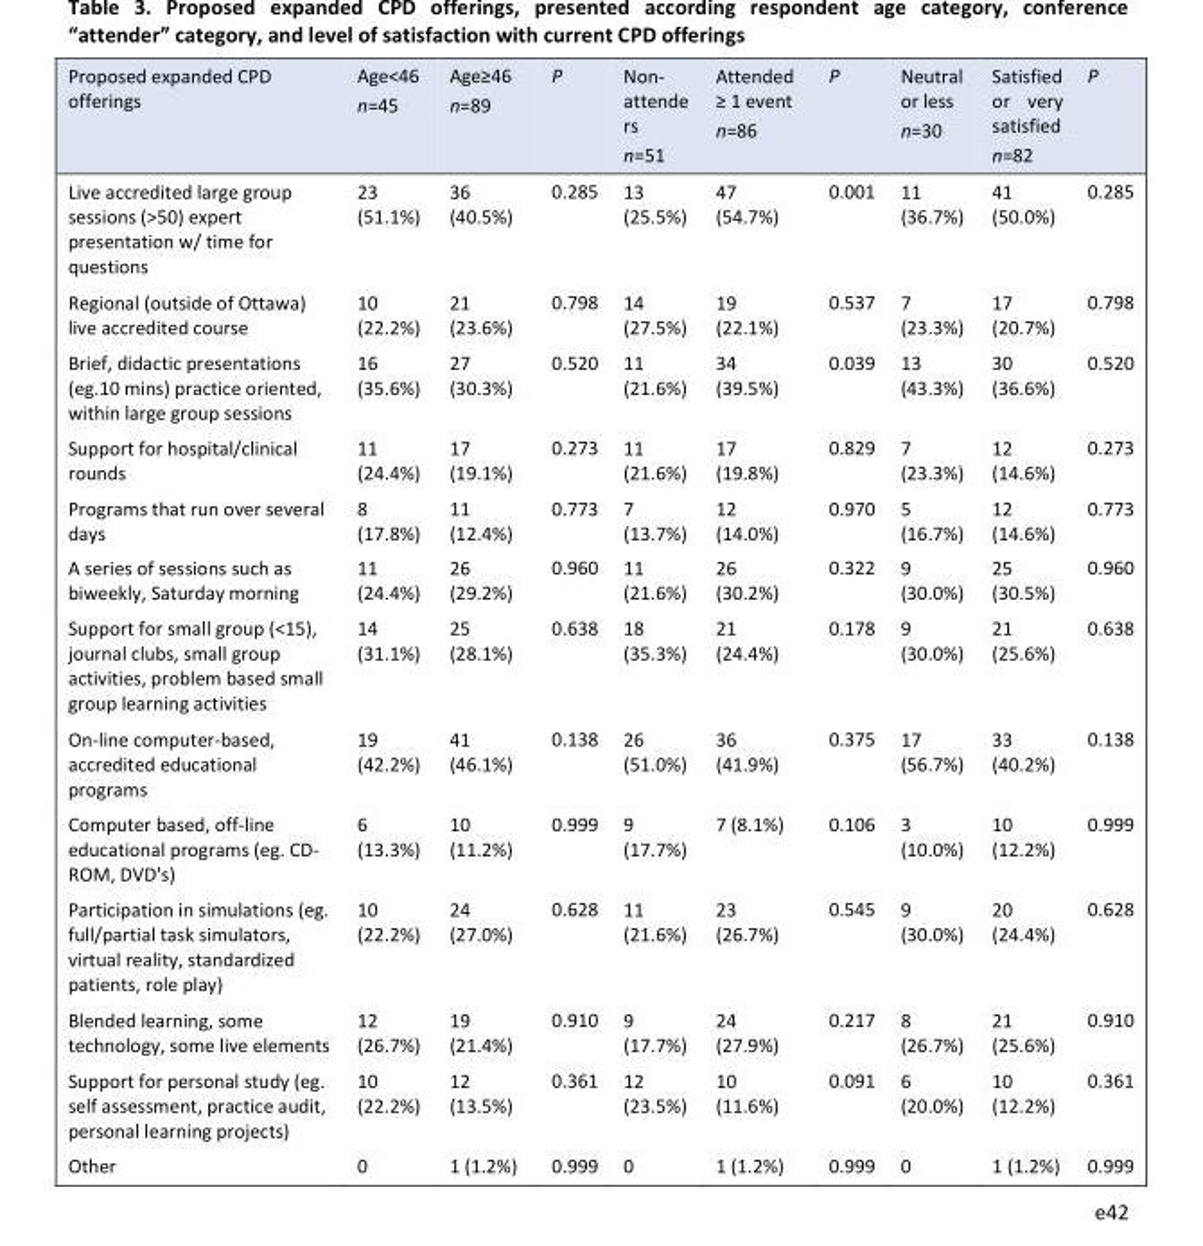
<table><thead><tr><td>Proposed expanded CPD offerings</td><td>Age&lt;46 n=45</td><td>Age≥46 n=89</td><td>P</td><td>Non- attende rs n=51</td><td>Attended ≥ 1 event n=86</td><td>P</td><td>Neutral or less n=30</td><td>Satisfied or very satisfied n=82</td><td>P</td></tr></thead><tbody><tr><td>Live accredited large group sessions (&gt;50) expert presentation w/ time for questions</td><td>23 (51.1%)</td><td>36 (40.5%)</td><td>0.285</td><td>13 (25.5%)</td><td>47 (54.7%)</td><td>0.001</td><td>11 (36.7%)</td><td>41 (50.0%)</td><td>0.285</td></tr><tr><td>Regional (outside of Ottawa) live accredited course</td><td>10 (22.2%)</td><td>21 (23.6%)</td><td>0.798</td><td>14 (27.5%)</td><td>19 (22.1%)</td><td>0.537</td><td>7 (23.3%)</td><td>17 (20.7%)</td><td>0.798</td></tr><tr><td>Brief, didactic presentations (eg.10 mins) practice oriented, within large group sessions</td><td>16 (35.6%)</td><td>27 (30.3%)</td><td>0.520</td><td>11 (21.6%)</td><td>34 (39.5%)</td><td>0.039</td><td>13 (43.3%)</td><td>30 (36.6%)</td><td>0.520</td></tr><tr><td>Support for hospital/clinical rounds</td><td>11 (24.4%)</td><td>17 (19.1%)</td><td>0.273</td><td>11 (21.6%)</td><td>17 (19.8%)</td><td>0.829</td><td>7 (23.3%)</td><td>12 (14.6%)</td><td>0.273</td></tr><tr><td>Programs that run over several days</td><td>8 (17.8%)</td><td>11 (12.4%)</td><td>0.773</td><td>7 (13.7%)</td><td>12 (14.0%)</td><td>0.970</td><td>5 (16.7%)</td><td>12 (14.6%)</td><td>0.773</td></tr><tr><td>A series of sessions such as biweekly, Saturday morning</td><td>11 (24.4%)</td><td>26 (29.2%)</td><td>0.960</td><td>11 (21.6%)</td><td>26 (30.2%)</td><td>0.322</td><td>9 (30.0%)</td><td>25 (30.5%)</td><td>0.960</td></tr><tr><td>Support for small group (&lt;15), journal clubs, small group activities, problem based small group learning activities</td><td>14 (31.1%)</td><td>25 (28.1%)</td><td>0.638</td><td>18 (35.3%)</td><td>21 (24.4%)</td><td>0.178</td><td>9 (30.0%)</td><td>21 (25.6%)</td><td>0.638</td></tr><tr><td>On-line computer-based, accredited educational programs</td><td>19 (42.2%)</td><td>41 (46.1%)</td><td>0.138</td><td>26 (51.0%)</td><td>36 (41.9%)</td><td>0.375</td><td>17 (56.7%)</td><td>33 (40.2%)</td><td>0.138</td></tr><tr><td>Computer based, off-line educational programs (eg. CD- ROM, DVD&#x27;s)</td><td>6 (13.3%)</td><td>10 (11.2%)</td><td>0.999</td><td>9 (17.7%)</td><td>7 (8.1%)</td><td>0.106</td><td>3 (10.0%)</td><td>10 (12.2%)</td><td>0.999</td></tr><tr><td>Participation in simulations (eg. full/partial task simulators, virtual reality, standardized patients, role play)</td><td>10 (22.2%)</td><td>24 (27.0%)</td><td>0.628</td><td>11 (21.6%)</td><td>23 (26.7%)</td><td>0.545</td><td>9 (30.0%)</td><td>20 (24.4%)</td><td>0.628</td></tr><tr><td>Blended learning, some technology, some live elements</td><td>12 (26.7%)</td><td>19 (21.4%)</td><td>0.910</td><td>9 (17.7%)</td><td>24 (27.9%)</td><td>0.217</td><td>8 (26.7%)</td><td>21 (25.6%)</td><td>0.910</td></tr><tr><td>Support for personal study (eg. self assessment, practice audit, personal learning projects)</td><td>10 (22.2%)</td><td>12 (13.5%)</td><td>0.361</td><td>12 (23.5%)</td><td>10 (11.6%)</td><td>0.091</td><td>6 (20.0%)</td><td>10 (12.2%)</td><td>0.361</td></tr><tr><td>Other</td><td>0</td><td>1 (1.2%)</td><td>0.999</td><td>0</td><td>1 (1.2%)</td><td>0.999</td><td>0</td><td>1 (1.2%)</td><td>0.999</td></tr></tbody></table>